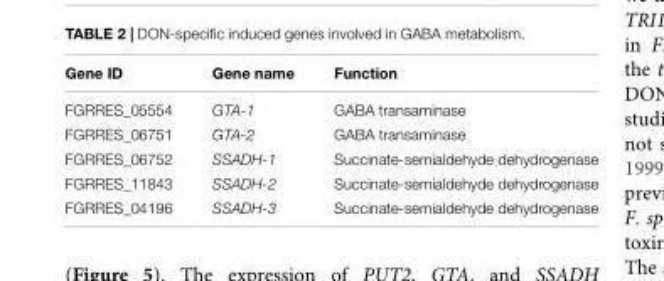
<table><thead><tr><td>Gene ID</td><td>Gene name</td><td>Function</td></tr></thead><tbody><tr><td>FGRRES_05554</td><td>GTA-1</td><td>GABA transaminase</td></tr><tr><td>FGRRES_06751</td><td>GTA-2</td><td>GABA transaminase</td></tr><tr><td>FGRRES_06752</td><td>SSADH-1</td><td>Succinate-semialdehyde dehydrogenase</td></tr><tr><td>FGRRES_11843</td><td>SSADH-2</td><td>Succinate-semialdehyde dehydrogenase</td></tr><tr><td>FGRRES_04196</td><td>SSADH-3</td><td>Succinate-semialdehyde dehydrogenase</td></tr></tbody></table>